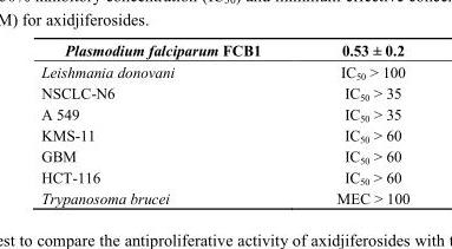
<table><thead><tr><td>Plasmodium falciparum FCB1</td><td>0.53 ± 0.2</td></tr></thead><tbody><tr><td>Leishmania donovani</td><td>IC<sub>50</sub> &gt; 100</td></tr><tr><td>NSCLC-N6</td><td>IC<sub>50</sub> &gt; 35</td></tr><tr><td>A 549</td><td>IC<sub>50</sub> &gt; 35</td></tr><tr><td>KMS-11</td><td>IC<sub>50</sub> &gt; 60</td></tr><tr><td>GBM</td><td>IC<sub>50</sub> &gt; 60</td></tr><tr><td>HCT-116</td><td>IC<sub>50</sub> &gt; 60</td></tr><tr><td>Trypanosoma brucei</td><td>MEC &gt; 100</td></tr></tbody></table>